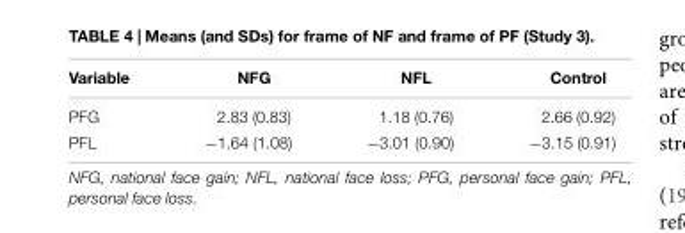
<table><thead><tr><td>Variable</td><td>NFG</td><td>NFL</td><td>Control</td></tr></thead><tbody><tr><td>PFG</td><td>2.83 (0.83)</td><td>1.18 (0.76)</td><td>2.66 (0.92)</td></tr><tr><td>PFL</td><td>−1.64 (1.08)</td><td>−3.01 (0.90)</td><td>−3.15 (0.91)</td></tr></tbody></table>